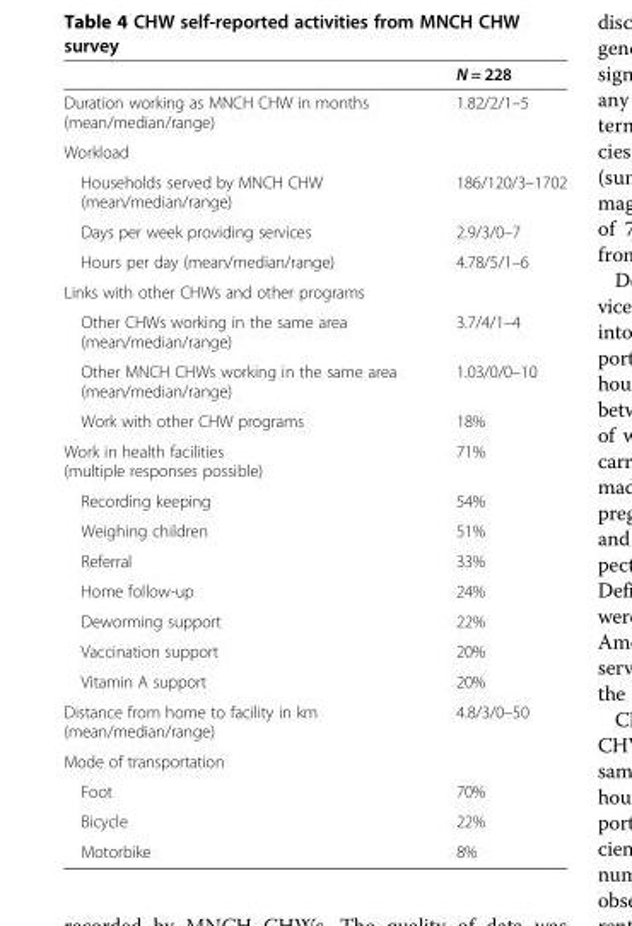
<table><thead><tr><td></td><td>N = 228</td></tr></thead><tbody><tr><td>Duration working as MNCH CHW in months (mean/median/range)</td><td>1.82/2/1–5</td></tr><tr><td colspan="2">Workload</td></tr><tr><td>Households served by MNCH CHW (mean/median/range)</td><td>186/120/3–1702</td></tr><tr><td>Days per week providing services</td><td>2.9/3/0–7</td></tr><tr><td>Hours per day (mean/median/range)</td><td>4.78/5/1–6</td></tr><tr><td colspan="2">Links with other CHWs and other programs</td></tr><tr><td>Other CHWs working in the same area (mean/median/range)</td><td>3.7/4/1–4</td></tr><tr><td>Other MNCH CHWs working in the same area (mean/median/range)</td><td>1.03/0/0–10</td></tr><tr><td>Work with other CHW programs</td><td>18%</td></tr><tr><td>Work in health facilities (multiple responses possible)</td><td>71%</td></tr><tr><td>Recording keeping</td><td>54%</td></tr><tr><td>Weighing children</td><td>51%</td></tr><tr><td>Referral</td><td>33%</td></tr><tr><td>Home follow-up</td><td>24%</td></tr><tr><td>Deworming support</td><td>22%</td></tr><tr><td>Vaccination support</td><td>20%</td></tr><tr><td>Vitamin A support</td><td>20%</td></tr><tr><td>Distance from home to facility in km (mean/median/range)</td><td>4.8/3/0–50</td></tr><tr><td colspan="2">Mode of transportation</td></tr><tr><td>Foot</td><td>70%</td></tr><tr><td>Bicycle</td><td>22%</td></tr><tr><td>Motorbike</td><td>8%</td></tr></tbody></table>